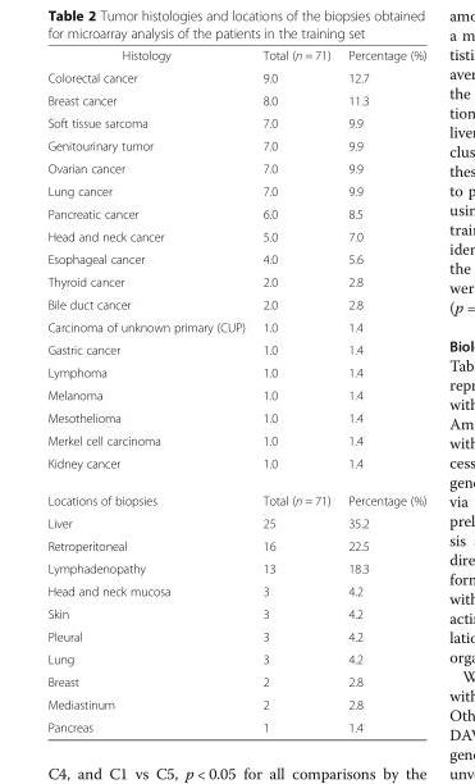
<table><tbody><tr><td>Histology</td><td>Total (n = 71)</td><td>Percentage (%)</td></tr><tr><td>Colorectal cancer</td><td>9.0</td><td>12.7</td></tr><tr><td>Breast cancer</td><td>8.0</td><td>11.3</td></tr><tr><td>Soft tissue sarcoma</td><td>7.0</td><td>9.9</td></tr><tr><td>Genitourinary tumor</td><td>7.0</td><td>9.9</td></tr><tr><td>Ovarian cancer</td><td>7.0</td><td>9.9</td></tr><tr><td>Lung cancer</td><td>7.0</td><td>9.9</td></tr><tr><td>Pancreatic cancer</td><td>6.0</td><td>8.5</td></tr><tr><td>Head and neck cancer</td><td>5.0</td><td>7.0</td></tr><tr><td>Esophageal cancer</td><td>4.0</td><td>5.6</td></tr><tr><td>Thyroid cancer</td><td>2.0</td><td>2.8</td></tr><tr><td>Bile duct cancer</td><td>2.0</td><td>2.8</td></tr><tr><td>Carcinoma of unknown primary (CUP)</td><td>1.0</td><td>1.4</td></tr><tr><td>Gastric cancer</td><td>1.0</td><td>1.4</td></tr><tr><td>Lymphoma</td><td>1.0</td><td>1.4</td></tr><tr><td>Melanoma</td><td>1.0</td><td>1.4</td></tr><tr><td>Mesothelioma</td><td>1.0</td><td>1.4</td></tr><tr><td>Merkel cell carcinoma</td><td>1.0</td><td>1.4</td></tr><tr><td>Kidney cancer</td><td>1.0</td><td>1.4</td></tr><tr><td>Locations of biopsies</td><td>Total (n = 71)</td><td>Percentage (%)</td></tr><tr><td>Liver</td><td>25</td><td>35.2</td></tr><tr><td>Retroperitoneal</td><td>16</td><td>22.5</td></tr><tr><td>Lymphadenopathy</td><td>13</td><td>18.3</td></tr><tr><td>Head and neck mucosa</td><td>3</td><td>4.2</td></tr><tr><td>Skin</td><td>3</td><td>4.2</td></tr><tr><td>Pleural</td><td>3</td><td>4.2</td></tr><tr><td>Lung</td><td>3</td><td>4.2</td></tr><tr><td>Breast</td><td>2</td><td>2.8</td></tr><tr><td>Mediastinum</td><td>2</td><td>2.8</td></tr><tr><td>Pancreas</td><td>1</td><td>1.4</td></tr></tbody></table>